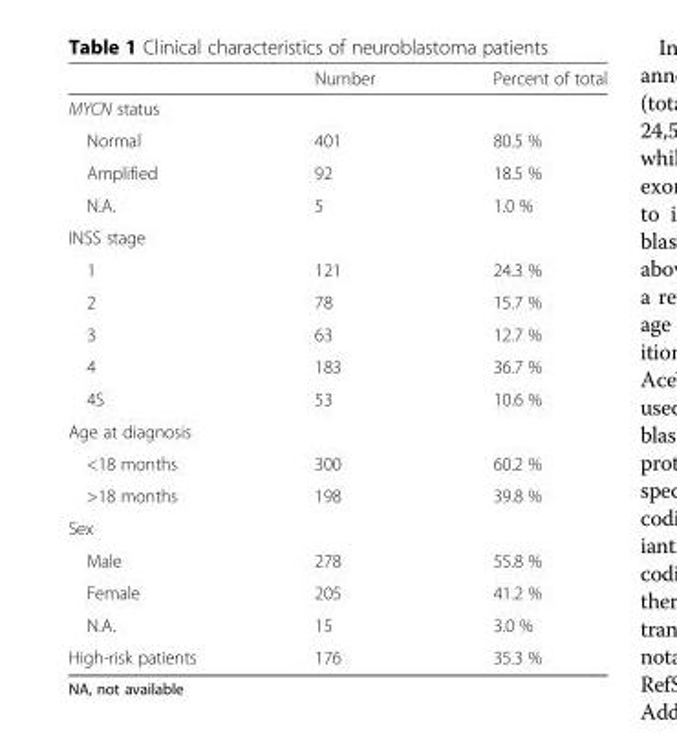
<table><thead><tr><td></td><td>Number</td><td>Percent of total</td></tr></thead><tbody><tr><td colspan="3">MYCN status</td></tr><tr><td>Normal</td><td>401</td><td>80.5 %</td></tr><tr><td>Amplified</td><td>92</td><td>18.5 %</td></tr><tr><td>N.A.</td><td>5</td><td>1.0 %</td></tr><tr><td colspan="3">INSS stage</td></tr><tr><td>1</td><td>121</td><td>24.3 %</td></tr><tr><td>2</td><td>78</td><td>15.7 %</td></tr><tr><td>3</td><td>63</td><td>12.7 %</td></tr><tr><td>4</td><td>183</td><td>36.7 %</td></tr><tr><td>4S</td><td>53</td><td>10.6 %</td></tr><tr><td colspan="3">Age at diagnosis</td></tr><tr><td>&lt;18 months</td><td>300</td><td>60.2 %</td></tr><tr><td>&gt;18 months</td><td>198</td><td>39.8 %</td></tr><tr><td colspan="3">Sex</td></tr><tr><td>Male</td><td>278</td><td>55.8 %</td></tr><tr><td>Female</td><td>205</td><td>41.2 %</td></tr><tr><td>N.A.</td><td>15</td><td>3.0 %</td></tr><tr><td>High-risk patients</td><td>176</td><td>35.3 %</td></tr></tbody></table>